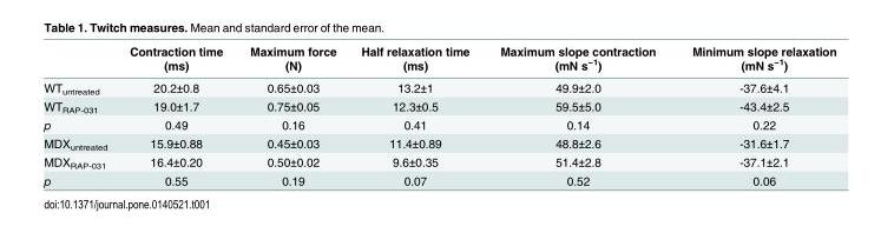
<table><thead><tr><td></td><td>Contraction time (ms)</td><td>Maximum force (N)</td><td>Half relaxation time (ms)</td><td>Maximum slope contraction (mN s<sup>−1</sup>)</td><td>Minimum slope relaxation (mN s<sup>−1</sup>)</td></tr></thead><tbody><tr><td>WT<sub>untreated</sub></td><td>20.2±0.8</td><td>0.65±0.03</td><td>13.2±1</td><td>49.9±2.0</td><td>-37.6±4.1</td></tr><tr><td>WT<sub>RAP-031</sub></td><td>19.0±1.7</td><td>0.75±0.05</td><td>12.3±0.5</td><td>59.5±5.0</td><td>-43.4±2.5</td></tr><tr><td>p</td><td>0.49</td><td>0.16</td><td>0.41</td><td>0.14</td><td>0.22</td></tr><tr><td>MDX<sub>untreated</sub></td><td>15.9±0.88</td><td>0.45±0.03</td><td>11.4±0.89</td><td>48.8±2.6</td><td>-31.6±1.7</td></tr><tr><td>MDX<sub>RAP-031</sub></td><td>16.4±0.20</td><td>0.50±0.02</td><td>9.6±0.35</td><td>51.4±2.8</td><td>-37.1±2.1</td></tr><tr><td>p</td><td>0.55</td><td>0.19</td><td>0.07</td><td>0.52</td><td>0.06</td></tr></tbody></table>